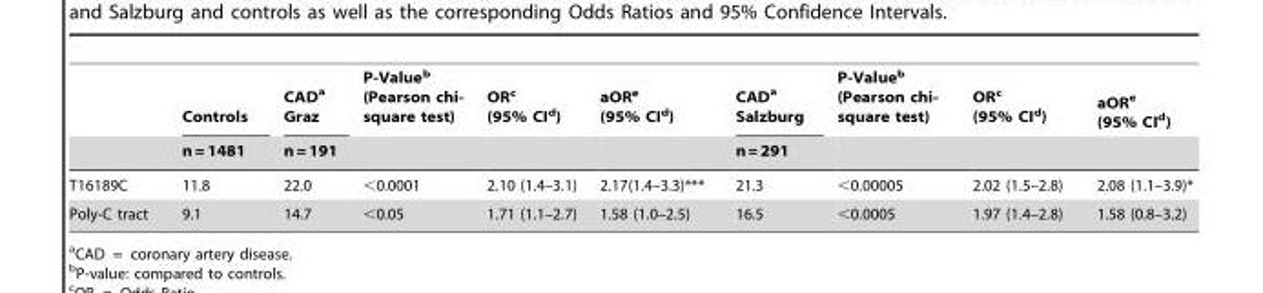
<table><thead><tr><td rowspan="2"></td><td rowspan="2">Controls n = 1481</td><td rowspan="2">CAD<sup>a</sup> Graz n = 191</td><td rowspan="2">P-Value<sup>b</sup> (Pearson chi- square test)</td><td rowspan="2">OR<sup>c</sup> (95% CI<sup>d</sup>)</td><td rowspan="2">aOR<sup>e</sup> (95% CI<sup>d</sup>)</td><td rowspan="2">CAD<sup>a</sup> Salzburg n = 291</td><td rowspan="2">P-Value<sup>b</sup> (Pearson chi- square test)</td><td rowspan="2">OR<sup>c</sup> (95% CI<sup>d</sup>)</td><td rowspan="2">aOR<sup>e</sup> (95% CI<sup>d</sup>)</td></tr><tr></tr></thead><tbody><tr><td>T16189C</td><td>11.8</td><td>22.0</td><td>&lt;0.0001</td><td>2.10 (1.4–3.1)</td><td>2.17(1.4–3.3)***</td><td>21.3</td><td>&lt;0.00005</td><td>2.02 (1.5–2.8)</td><td>2.08 (1.1–3.9)*</td></tr><tr><td>Poly-C tract</td><td>9.1</td><td>14.7</td><td>&lt;0.05</td><td>1.71 (1.1–2.7)</td><td>1.58 (1.0–2.5)</td><td>16.5</td><td>&lt;0.0005</td><td>1.97 (1.4–2.8)</td><td>1.58 (0.8–3.2)</td></tr></tbody></table>